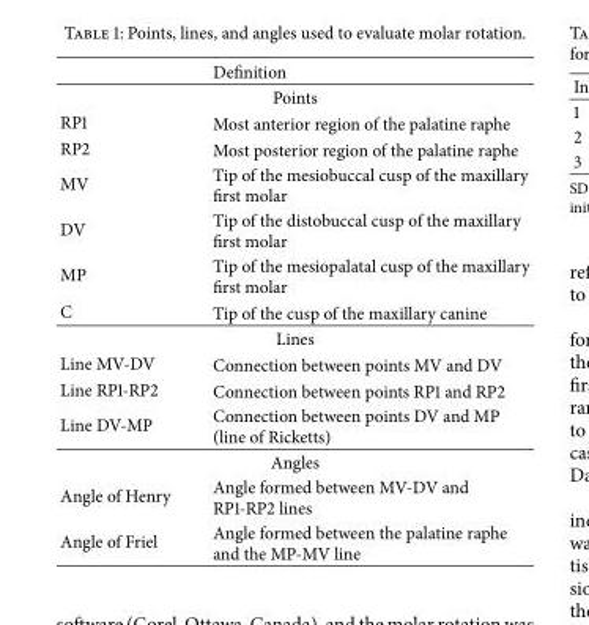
<table><thead><tr><td></td><td>Definition</td></tr></thead><tbody><tr><td colspan="2">Points</td></tr><tr><td>RP1</td><td>Most anterior region of the palatine raphe</td></tr><tr><td>RP2</td><td>Most posterior region of the palatine raphe</td></tr><tr><td>MV</td><td>Tip of the mesiobuccal cusp of the maxillary first molar</td></tr><tr><td>DV</td><td>Tip of the distobuccal cusp of the maxillary first molar</td></tr><tr><td>MP</td><td>Tip of the mesiopalatal cusp of the maxillary first molar</td></tr><tr><td>C</td><td>Tip of the cusp of the maxillary canine</td></tr><tr><td colspan="2">Lines</td></tr><tr><td>Line MV-DV</td><td>Connection between points MV and DV</td></tr><tr><td>Line RP1-RP2</td><td>Connection between points RP1 and RP2</td></tr><tr><td>Line DV-MP</td><td>Connection between points DV and MP (line of Ricketts)</td></tr><tr><td colspan="2">Angles</td></tr><tr><td>Angle of Henry</td><td>Angle formed between MV-DV and RP1-RP2 lines</td></tr><tr><td>Angle of Friel</td><td>Angle formed between the palatine raphe and the MP-MV line</td></tr></tbody></table>